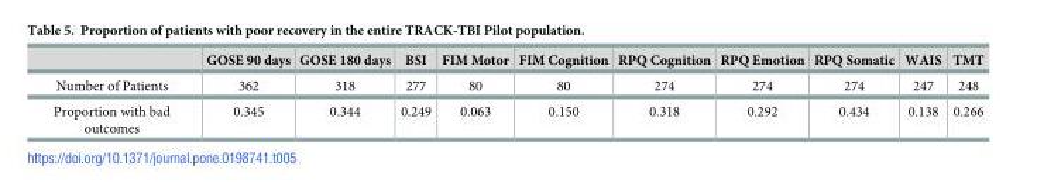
<table><thead><tr><td></td><td>GOSE 90 days</td><td>GOSE 180 days</td><td>BSI</td><td>FIM Motor</td><td>FIM Cognition</td><td>RPQ Cognition</td><td>RPQ Emotion</td><td>RPQ Somatic</td><td>WAIS</td><td>TMT</td></tr></thead><tbody><tr><td>Number of Patients</td><td>362</td><td>318</td><td>277</td><td>80</td><td>80</td><td>274</td><td>274</td><td>274</td><td>247</td><td>248</td></tr><tr><td>Proportion with bad outcomes</td><td>0.345</td><td>0.344</td><td>0.249</td><td>0.063</td><td>0.150</td><td>0.318</td><td>0.292</td><td>0.434</td><td>0.138</td><td>0.266</td></tr></tbody></table>